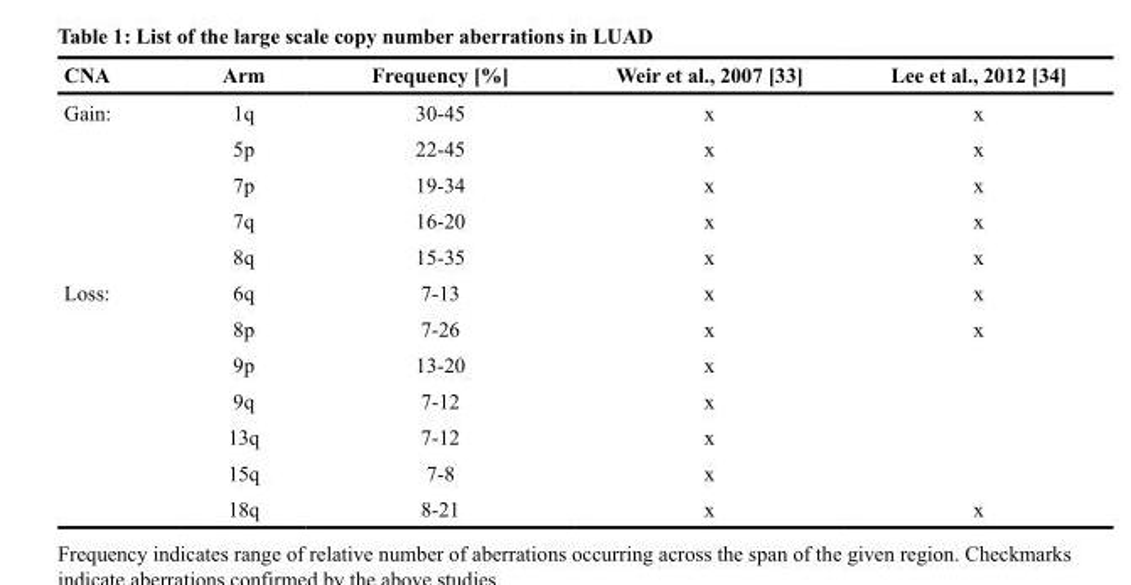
<table><thead><tr><td>CNA</td><td>Arm</td><td>Frequency [%]</td><td>Weir et al., 2007 [33]</td><td>Lee et al., 2012 [34]</td></tr></thead><tbody><tr><td rowspan="5">Gain:</td><td>1q</td><td>30-45</td><td>x</td><td>x</td></tr><tr><td>5p</td><td>22-45</td><td>x</td><td>x</td></tr><tr><td>7p</td><td>19-34</td><td>x</td><td>x</td></tr><tr><td>7q</td><td>16-20</td><td>x</td><td>x</td></tr><tr><td>8q</td><td>15-35</td><td>x</td><td>x</td></tr><tr><td rowspan="7">Loss:</td><td>6q</td><td>7-13</td><td>x</td><td>x</td></tr><tr><td>8p</td><td>7-26</td><td>x</td><td>x</td></tr><tr><td>9p</td><td>13-20</td><td>x</td><td></td></tr><tr><td>9q</td><td>7-12</td><td>x</td><td></td></tr><tr><td>13q</td><td>7-12</td><td>x</td><td></td></tr><tr><td>15q</td><td>7-8</td><td>x</td><td></td></tr><tr><td>18q</td><td>8-21</td><td>x</td><td>x</td></tr></tbody></table>